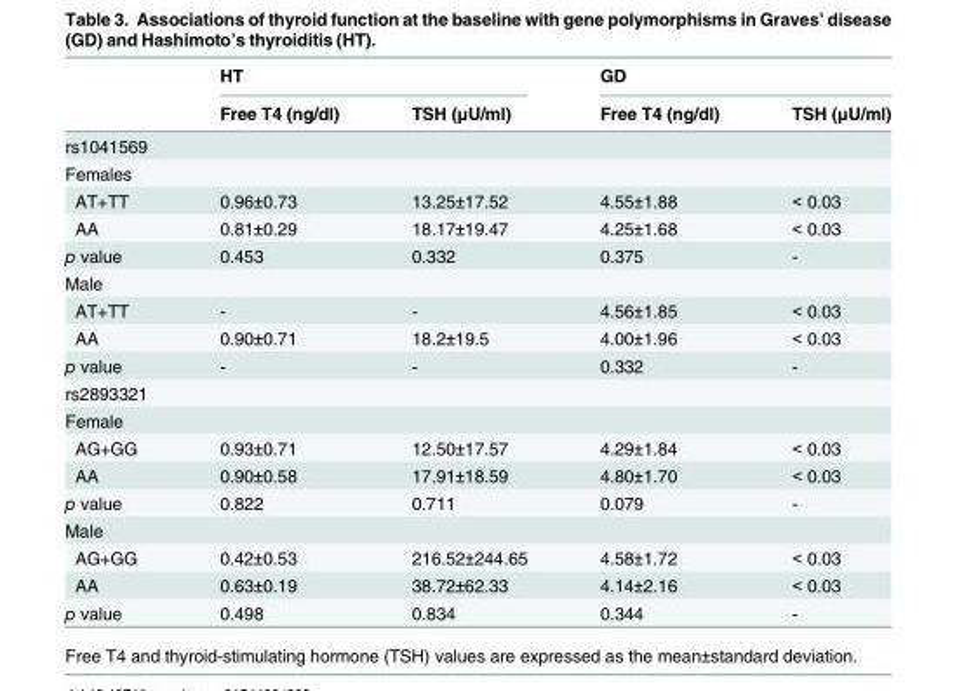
<table><thead><tr><td rowspan="2"></td><td colspan="2">HT</td><td colspan="2">GD</td></tr><tr><td>Free T4 (ng/dl)</td><td>TSH (μU/ml)</td><td>Free T4 (ng/dl)</td><td>TSH (μU/ml)</td></tr></thead><tbody><tr><td colspan="5">rs1041569</td></tr><tr><td colspan="5">Females</td></tr><tr><td>AT+TT</td><td>0.96±0.73</td><td>13.25±17.52</td><td>4.55±1.88</td><td>&lt; 0.03</td></tr><tr><td>AA</td><td>0.81±0.29</td><td>18.17±19.47</td><td>4.25±1.68</td><td>&lt; 0.03</td></tr><tr><td>p value</td><td>0.453</td><td>0.332</td><td>0.375</td><td>-</td></tr><tr><td colspan="5">Male</td></tr><tr><td>AT+TT</td><td>-</td><td>-</td><td>4.56±1.85</td><td>&lt; 0.03</td></tr><tr><td>AA</td><td>0.90±0.71</td><td>18.2±19.5</td><td>4.00±1.96</td><td>&lt; 0.03</td></tr><tr><td>p value</td><td>-</td><td>-</td><td>0.332</td><td>-</td></tr><tr><td colspan="5">rs2893321</td></tr><tr><td colspan="5">Female</td></tr><tr><td>AG+GG</td><td>0.93±0.71</td><td>12.50±17.57</td><td>4.29±1.84</td><td>&lt; 0.03</td></tr><tr><td>AA</td><td>0.90±0.58</td><td>17.91±18.59</td><td>4.80±1.70</td><td>&lt; 0.03</td></tr><tr><td>p value</td><td>0.822</td><td>0.711</td><td>0.079</td><td>-</td></tr><tr><td colspan="5">Male</td></tr><tr><td>AG+GG</td><td>0.42±0.53</td><td>216.52±244.65</td><td>4.58±1.72</td><td>&lt; 0.03</td></tr><tr><td>AA</td><td>0.63±0.19</td><td>38.72±62.33</td><td>4.14±2.16</td><td>&lt; 0.03</td></tr><tr><td>p value</td><td>0.498</td><td>0.834</td><td>0.344</td><td>-</td></tr></tbody></table>